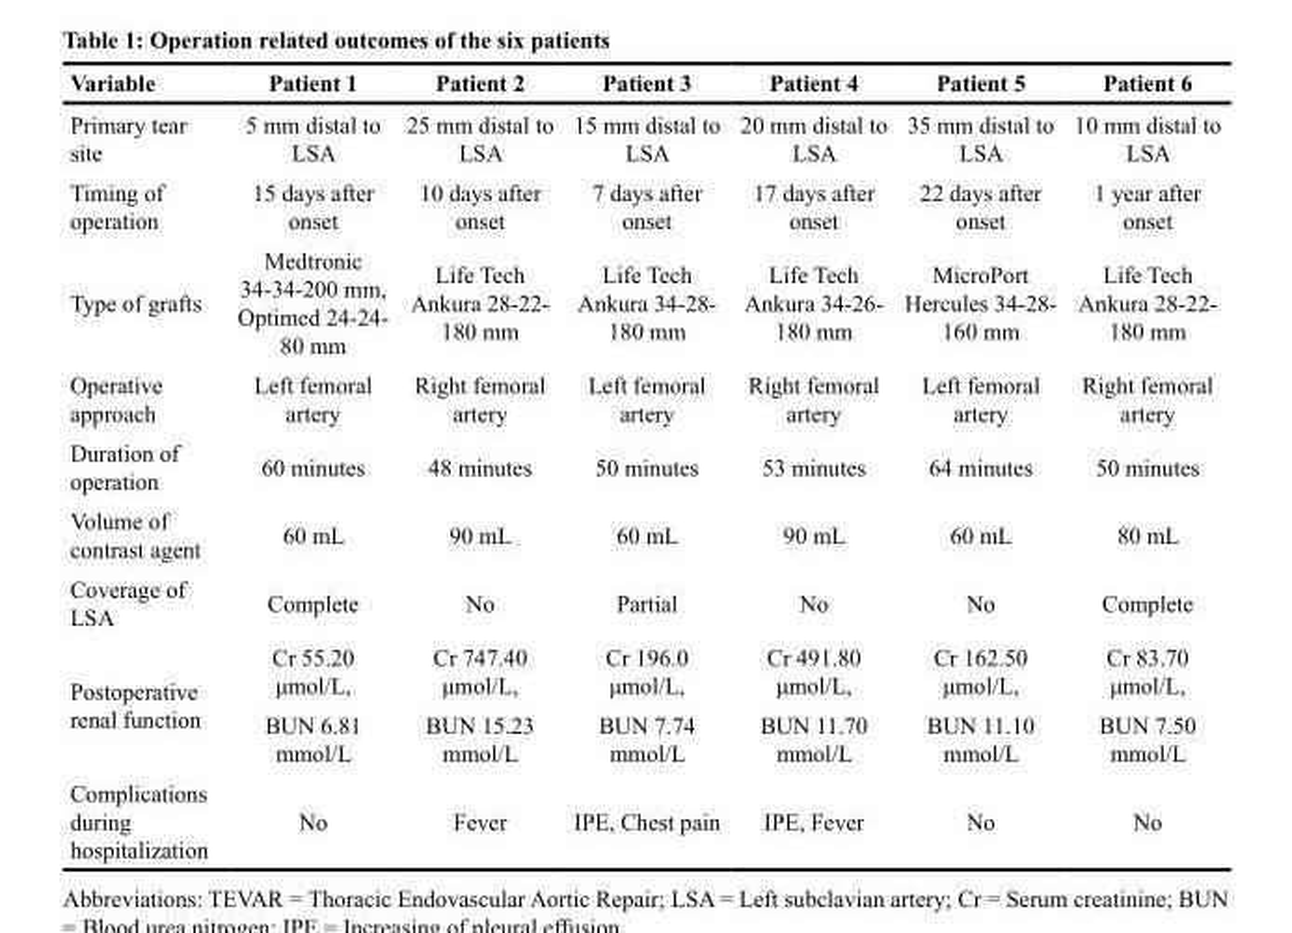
<table><thead><tr><td>Variable</td><td>Patient 1</td><td>Patient 2</td><td>Patient 3</td><td>Patient 4</td><td>Patient 5</td><td>Patient 6</td></tr></thead><tbody><tr><td>Primary tear site</td><td>5 mm distal to LSA</td><td>25 mm distal to LSA</td><td>15 mm distal to LSA</td><td>20 mm distal to LSA</td><td>35 mm distal to LSA</td><td>10 mm distal to LSA</td></tr><tr><td>Timing of operation</td><td>15 days after onset</td><td>10 days after onset</td><td>7 days after onset</td><td>17 days after onset</td><td>22 days after onset</td><td>1 year after onset</td></tr><tr><td>Type of grafts</td><td>Medtronic 34-34-200 mm, Optimed 24-24- 80 mm</td><td>Life Tech Ankura 28-22- 180 mm</td><td>Life Tech Ankura 34-28- 180 mm</td><td>Life Tech Ankura 34-26- 180 mm</td><td>MicroPort Hercules 34-28- 160 mm</td><td>Life Tech Ankura 28-22- 180 mm</td></tr><tr><td>Operative approach</td><td>Left femoral artery</td><td>Right femoral artery</td><td>Left femoral artery</td><td>Right femoral artery</td><td>Left femoral artery</td><td>Right femoral artery</td></tr><tr><td>Duration of operation</td><td>60 minutes</td><td>48 minutes</td><td>50 minutes</td><td>53 minutes</td><td>64 minutes</td><td>50 minutes</td></tr><tr><td>Volume of contrast agent</td><td>60 mL</td><td>90 mL</td><td>60 mL</td><td>90 mL</td><td>60 mL</td><td>80 mL</td></tr><tr><td>Coverage of LSA</td><td>Complete</td><td>No</td><td>Partial</td><td>No</td><td>No</td><td>Complete</td></tr><tr><td rowspan="2">Postoperative renal function</td><td>Cr 55.20 μmol/L,</td><td>Cr 747.40 μmol/L,</td><td>Cr 196.0 μmol/L,</td><td>Cr 491.80 μmol/L,</td><td>Cr 162.50 μmol/L,</td><td>Cr 83.70 μmol/L,</td></tr><tr><td>BUN 6.81 mmol/L</td><td>BUN 15.23 mmol/L</td><td>BUN 7.74 mmol/L</td><td>BUN 11.70 mmol/L</td><td>BUN 11.10 mmol/L</td><td>BUN 7.50 mmol/L</td></tr><tr><td>Complications during hospitalization</td><td>No</td><td>Fever</td><td>IPE, Chest pain</td><td>IPE, Fever</td><td>No</td><td>No</td></tr></tbody></table>